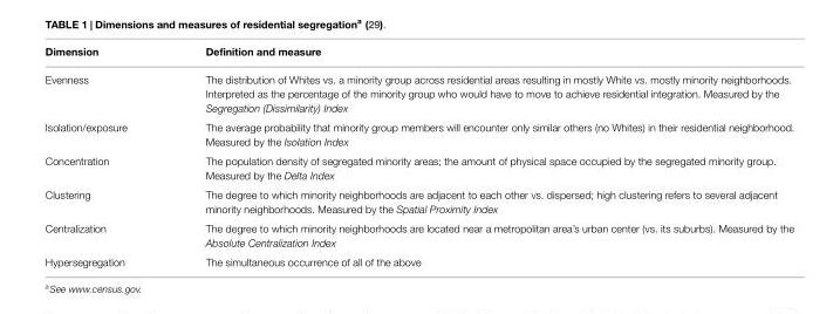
<table><thead><tr><td>Dimension</td><td>Definition and measure</td></tr></thead><tbody><tr><td>Evenness</td><td>The distribution of Whites vs. a minority group across residential areas resulting in mostly White vs. mostly minority neighborhoods. Interpreted as the percentage of the minority group who would have to move to achieve residential integration. Measured by the Segregation (Dissimilarity) Index</td></tr><tr><td>Isolation/exposure</td><td>The average probability that minority group members will encounter only similar others (no Whites) in their residential neighborhood. Measured by the Isolation Index</td></tr><tr><td>Concentration</td><td>The population density of segregated minority areas; the amount of physical space occupied by the segregated minority group. Measured by the Delta Index</td></tr><tr><td>Clustering</td><td>The degree to which minority neighborhoods are adjacent to each other vs. dispersed; high clustering refers to several adjacent minority neighborhoods. Measured by the Spatial Proximity Index</td></tr><tr><td>Centralization</td><td>The degree to which minority neighborhoods are located near a metropolitan area’s urban center (vs. its suburbs). Measured by the Absolute Centralization Index</td></tr><tr><td>Hypersegregation</td><td>The simultaneous occurrence of all of the above</td></tr></tbody></table>